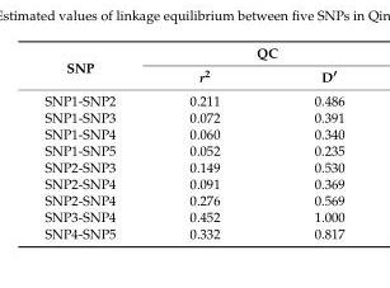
<table><thead><tr><td rowspan="2">SNP</td><td colspan="2">QC</td></tr><tr><td>r<sup>2</sup></td><td>D′</td></tr></thead><tbody><tr><td>SNP1-SNP2</td><td>0.211</td><td>0.486</td></tr><tr><td>SNP1-SNP3</td><td>0.072</td><td>0.391</td></tr><tr><td>SNP1-SNP4</td><td>0.060</td><td>0.340</td></tr><tr><td>SNP1-SNP5</td><td>0.052</td><td>0.235</td></tr><tr><td>SNP2-SNP3</td><td>0.149</td><td>0.530</td></tr><tr><td>SNP2-SNP4</td><td>0.091</td><td>0.369</td></tr><tr><td>SNP2-SNP4</td><td>0.276</td><td>0.569</td></tr><tr><td>SNP3-SNP4</td><td>0.452</td><td>1.000</td></tr><tr><td>SNP4-SNP5</td><td>0.332</td><td>0.817</td></tr></tbody></table>